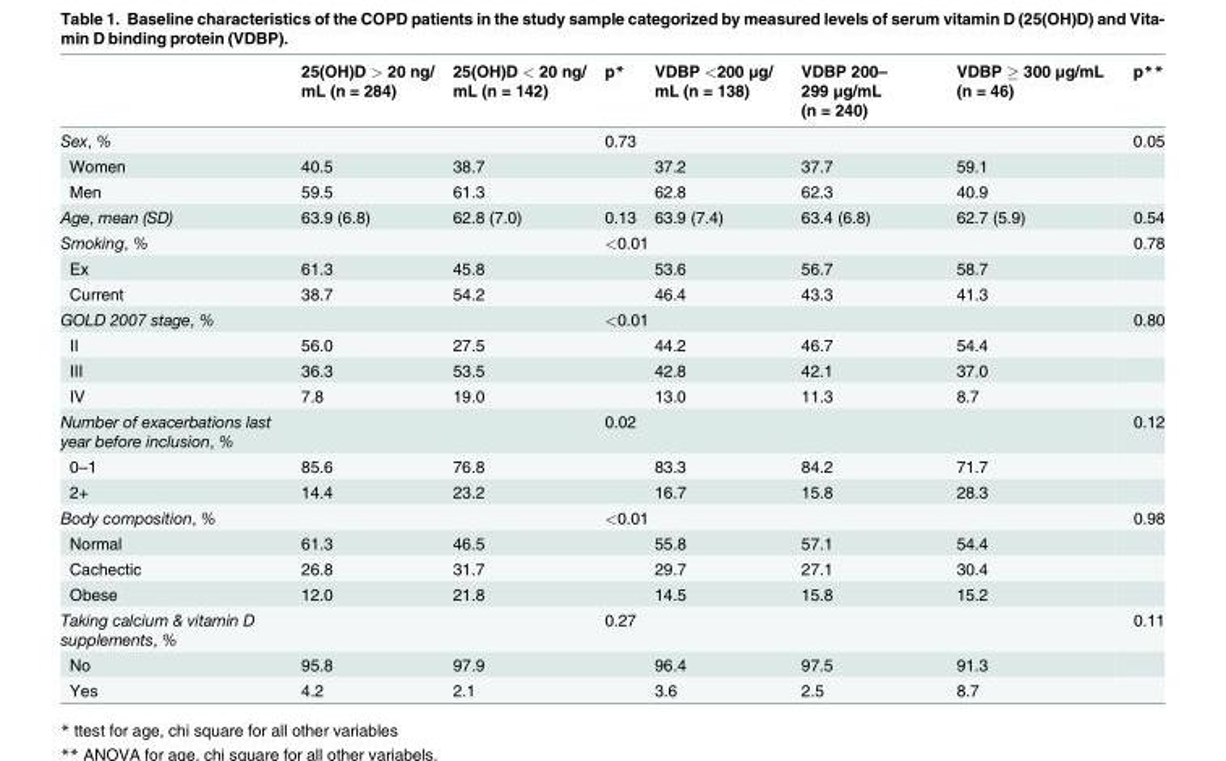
<table><thead><tr><td></td><td>25(OH)D &gt; 20 ng/ mL (n = 284)</td><td>25(OH)D &lt; 20 ng/ mL (n = 142)</td><td>p*</td><td>VDBP &lt;200 μg/ mL (n = 138)</td><td>VDBP 200– 299 μg/mL (n = 240)</td><td>VDBP ≥ 300 μg/mL (n = 46)</td><td>p**</td></tr></thead><tbody><tr><td>Sex, %</td><td></td><td></td><td>0.73</td><td></td><td></td><td></td><td>0.05</td></tr><tr><td>Women</td><td>40.5</td><td>38.7</td><td></td><td>37.2</td><td>37.7</td><td>59.1</td><td></td></tr><tr><td>Men</td><td>59.5</td><td>61.3</td><td></td><td>62.8</td><td>62.3</td><td>40.9</td><td></td></tr><tr><td>Age, mean (SD)</td><td>63.9 (6.8)</td><td>62.8 (7.0)</td><td>0.13</td><td>63.9 (7.4)</td><td>63.4 (6.8)</td><td>62.7 (5.9)</td><td>0.54</td></tr><tr><td>Smoking, %</td><td></td><td></td><td colspan="2">&lt;0.01</td><td></td><td></td><td>0.78</td></tr><tr><td>Ex</td><td>61.3</td><td>45.8</td><td></td><td>53.6</td><td>56.7</td><td>58.7</td><td></td></tr><tr><td>Current</td><td>38.7</td><td>54.2</td><td></td><td>46.4</td><td>43.3</td><td>41.3</td><td></td></tr><tr><td>GOLD 2007 stage, %</td><td></td><td></td><td colspan="2">&lt;0.01</td><td></td><td></td><td>0.80</td></tr><tr><td>II</td><td>56.0</td><td>27.5</td><td></td><td>44.2</td><td>46.7</td><td>54.4</td><td></td></tr><tr><td>III</td><td>36.3</td><td>53.5</td><td></td><td>42.8</td><td>42.1</td><td>37.0</td><td></td></tr><tr><td>IV</td><td>7.8</td><td>19.0</td><td></td><td>13.0</td><td>11.3</td><td>8.7</td><td></td></tr><tr><td>Number of exacerbations last year before inclusion, %</td><td></td><td></td><td>0.02</td><td></td><td></td><td></td><td>0.12</td></tr><tr><td>0–1</td><td>85.6</td><td>76.8</td><td></td><td>83.3</td><td>84.2</td><td>71.7</td><td></td></tr><tr><td>2+</td><td>14.4</td><td>23.2</td><td></td><td>16.7</td><td>15.8</td><td>28.3</td><td></td></tr><tr><td>Body composition, %</td><td></td><td></td><td colspan="2">&lt;0.01</td><td></td><td></td><td>0.98</td></tr><tr><td>Normal</td><td>61.3</td><td>46.5</td><td></td><td>55.8</td><td>57.1</td><td>54.4</td><td></td></tr><tr><td>Cachectic</td><td>26.8</td><td>31.7</td><td></td><td>29.7</td><td>27.1</td><td>30.4</td><td></td></tr><tr><td>Obese</td><td>12.0</td><td>21.8</td><td></td><td>14.5</td><td>15.8</td><td>15.2</td><td></td></tr><tr><td>Taking calcium &amp; vitamin D supplements, %</td><td></td><td></td><td>0.27</td><td></td><td></td><td></td><td>0.11</td></tr><tr><td>No</td><td>95.8</td><td>97.9</td><td></td><td>96.4</td><td>97.5</td><td>91.3</td><td></td></tr><tr><td>Yes</td><td>4.2</td><td>2.1</td><td></td><td>3.6</td><td>2.5</td><td>8.7</td><td></td></tr></tbody></table>